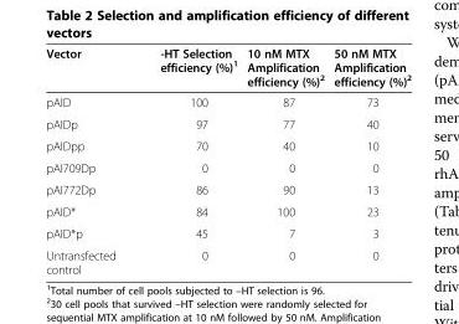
<table><thead><tr><td>Vector</td><td>-HT Selection efficiency (%)<sup>1</sup></td><td>10 nM MTX Amplification efficiency (%)<sup>2</sup></td><td>50 nM MTX Amplification efficiency (%)<sup>2</sup></td></tr></thead><tbody><tr><td>pAID</td><td>100</td><td>87</td><td>73</td></tr><tr><td>pAIDp</td><td>97</td><td>77</td><td>40</td></tr><tr><td>pAIDpp</td><td>70</td><td>40</td><td>10</td></tr><tr><td>pAI709Dp</td><td>0</td><td>0</td><td>0</td></tr><tr><td>pAI772Dp</td><td>86</td><td>90</td><td>13</td></tr><tr><td>pAID*</td><td>84</td><td>100</td><td>23</td></tr><tr><td>pAID*p</td><td>45</td><td>7</td><td>3</td></tr><tr><td>Untransfected control</td><td>0</td><td>0</td><td>0</td></tr></tbody></table>